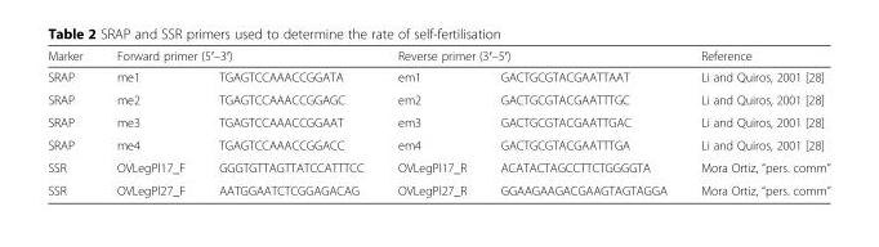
<table><thead><tr><td rowspan="2">Marker SRAP</td><td colspan="2">Forward primer (5′–3′)</td><td colspan="2">Reverse primer (3′–5′)</td><td rowspan="2">Reference Li and Quiros, 2001 [28]</td></tr><tr><td>me1</td><td>TGAGTCCAAACCGGATA</td><td>em1</td><td>GACTGCGTACGAATTAAT</td></tr></thead><tbody><tr><td>SRAP</td><td>me2</td><td>TGAGTCCAAACCGGAGC</td><td>em2</td><td>GACTGCGTACGAATTTGC</td><td>Li and Quiros, 2001 [28]</td></tr><tr><td>SRAP</td><td>me3</td><td>TGAGTCCAAACCGGAAT</td><td>em3</td><td>GACTGCGTACGAATTGAC</td><td>Li and Quiros, 2001 [28]</td></tr><tr><td>SRAP</td><td>me4</td><td>TGAGTCCAAACCGGACC</td><td>em4</td><td>GACTGCGTACGAATTTGA</td><td>Li and Quiros, 2001 [28]</td></tr><tr><td>SSR</td><td>OVLegPl17_F</td><td>GGGTGTTAGTTATCCATTTCC</td><td>OVLegPl17_R</td><td>ACATACTAGCCTTCTGGGGTA</td><td>Mora Ortiz, “pers. comm”</td></tr><tr><td>SSR</td><td>OVLegPl27_F</td><td>AATGGAATCTCGGAGACAG</td><td>OVLegPl27_R</td><td>GGAAGAAGACGAAGTAGTAGGA</td><td>Mora Ortiz, “pers. comm”</td></tr></tbody></table>